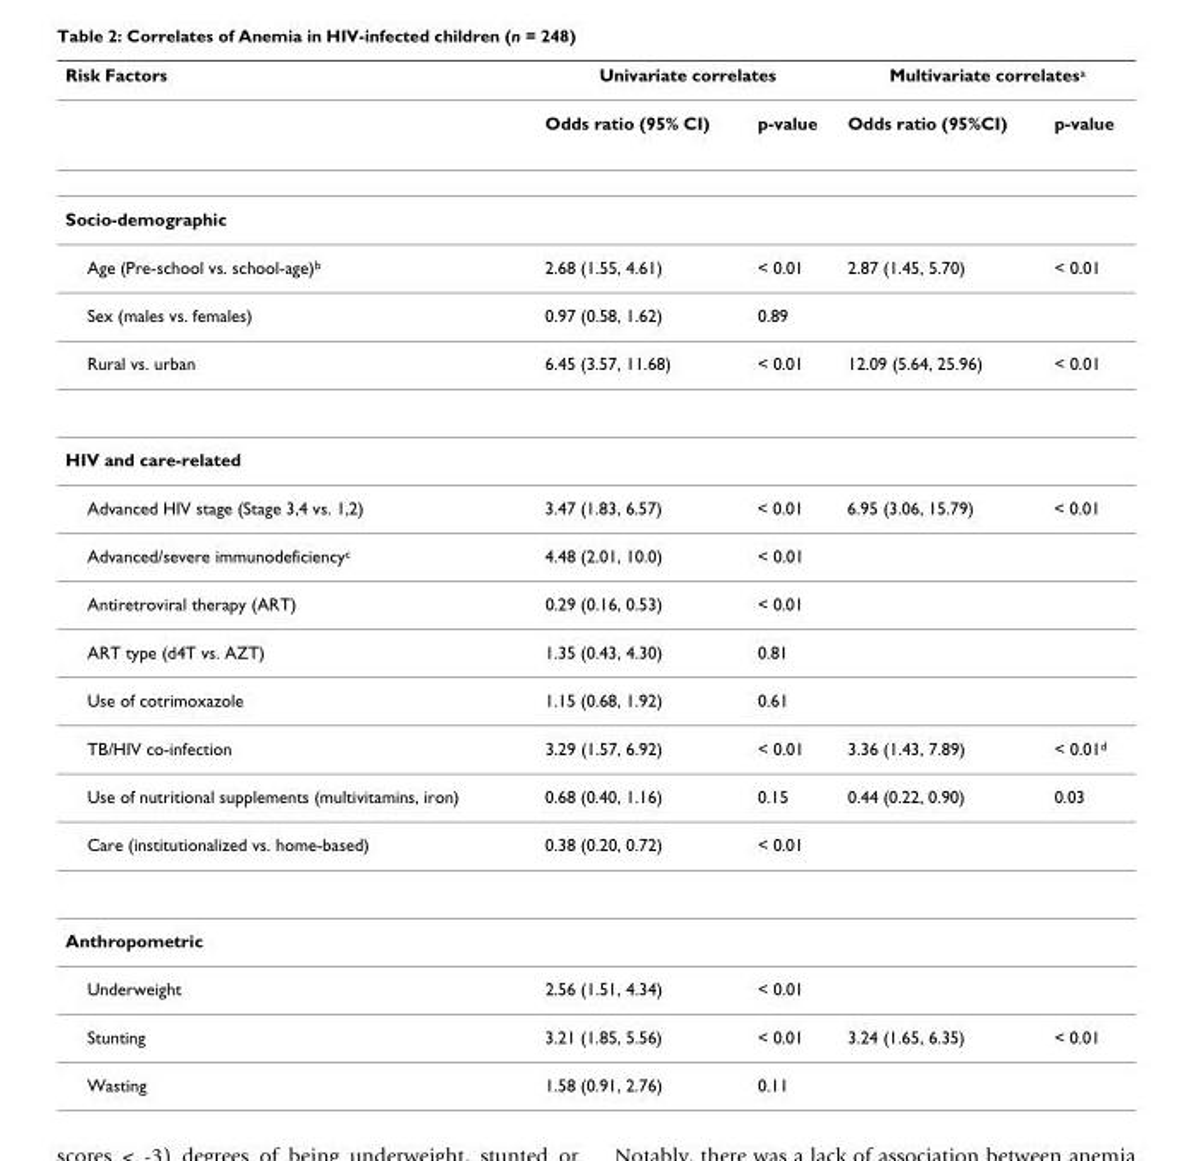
<table><thead><tr><td rowspan="2">Risk Factors</td><td colspan="2">Univariate correlates</td><td colspan="2">Multivariate correlatesa</td></tr><tr><td>Odds ratio (95% CI)</td><td>p-value</td><td>Odds ratio (95%CI)</td><td>p-value</td></tr></thead><tbody><tr><td colspan="5">Socio-demographic</td></tr><tr><td>Age (Pre-school vs. school-age)b</td><td>2.68 (1.55, 4.61)</td><td>&lt; 0.01</td><td>2.87 (1.45, 5.70)</td><td>&lt; 0.01</td></tr><tr><td>Sex (males vs. females)</td><td>0.97 (0.58, 1.62)</td><td>0.89</td><td></td><td></td></tr><tr><td>Rural vs. urban</td><td>6.45 (3.57, 11.68)</td><td>&lt; 0.01</td><td>12.09 (5.64, 25.96)</td><td>&lt; 0.01</td></tr><tr><td colspan="5">HIV and care-related</td></tr><tr><td>Advanced HIV stage (Stage 3,4 vs. 1,2)</td><td>3.47 (1.83, 6.57)</td><td>&lt; 0.01</td><td>6.95 (3.06, 15.79)</td><td>&lt; 0.01</td></tr><tr><td>Advanced/severe immunodeficiencyc</td><td>4.48 (2.01, 10.0)</td><td>&lt; 0.01</td><td></td><td></td></tr><tr><td>Antiretroviral therapy (ART)</td><td>0.29 (0.16, 0.53)</td><td>&lt; 0.01</td><td></td><td></td></tr><tr><td>ART type (d4T vs. AZT)</td><td>1.35 (0.43, 4.30)</td><td>0.81</td><td></td><td></td></tr><tr><td>Use of cotrimoxazole</td><td>1.15 (0.68, 1.92)</td><td>0.61</td><td></td><td></td></tr><tr><td>TB/HIV co-infection</td><td>3.29 (1.57, 6.92)</td><td>&lt; 0.01</td><td>3.36 (1.43, 7.89)</td><td>&lt; 0.01d</td></tr><tr><td>Use of nutritional supplements (multivitamins, iron)</td><td>0.68 (0.40, 1.16)</td><td>0.15</td><td>0.44 (0.22, 0.90)</td><td>0.03</td></tr><tr><td>Care (institutionalized vs. home-based)</td><td>0.38 (0.20, 0.72)</td><td>&lt; 0.01</td><td></td><td></td></tr><tr><td colspan="5">Anthropometric</td></tr><tr><td>Underweight</td><td>2.56 (1.51, 4.34)</td><td>&lt; 0.01</td><td></td><td></td></tr><tr><td>Stunting</td><td>3.21 (1.85, 5.56)</td><td>&lt; 0.01</td><td>3.24 (1.65, 6.35)</td><td>&lt; 0.01</td></tr><tr><td>Wasting</td><td>1.58 (0.91, 2.76)</td><td>0.11</td><td></td><td></td></tr></tbody></table>